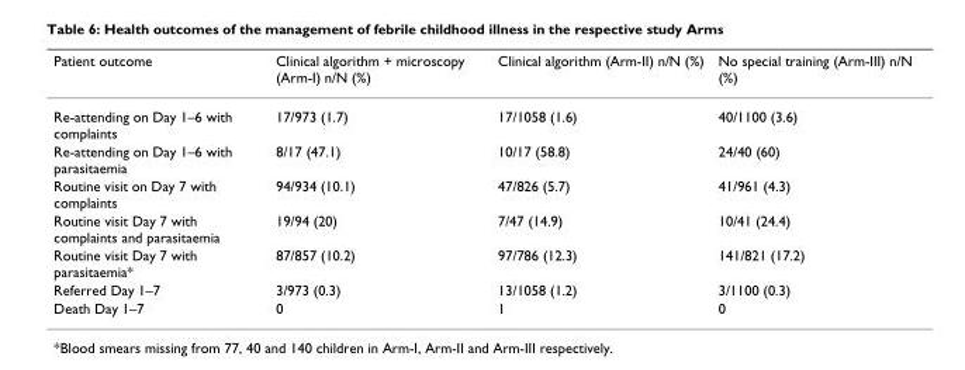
<table><thead><tr><td>Patient outcome</td><td>Clinical algorithm + microscopy (Arm-I) n/N (%)</td><td>Clinical algorithm (Arm-II) n/N (%)</td><td>No special training (Arm-III) n/N (%)</td></tr></thead><tbody><tr><td>Re-attending on Day 1–6 with complaints</td><td>17/973 (1.7)</td><td>17/1058 (1.6)</td><td>40/1100 (3.6)</td></tr><tr><td>Re-attending on Day 1–6 with parasitaemia</td><td>8/17 (47.1)</td><td>10/17 (58.8)</td><td>24/40 (60)</td></tr><tr><td>Routine visit on Day 7 with complaints</td><td>94/934 (10.1)</td><td>47/826 (5.7)</td><td>41/961 (4.3)</td></tr><tr><td>Routine visit Day 7 with complaints and parasitaemia</td><td>19/94 (20)</td><td>7/47 (14.9)</td><td>10/41 (24.4)</td></tr><tr><td>Routine visit Day 7 with parasitaemia*</td><td>87/857 (10.2)</td><td>97/786 (12.3)</td><td>141/821 (17.2)</td></tr><tr><td>Referred Day 1–7</td><td>3/973 (0.3)</td><td>13/1058 (1.2)</td><td>3/1100 (0.3)</td></tr><tr><td>Death Day 1–7</td><td>0</td><td>1</td><td>0</td></tr></tbody></table>